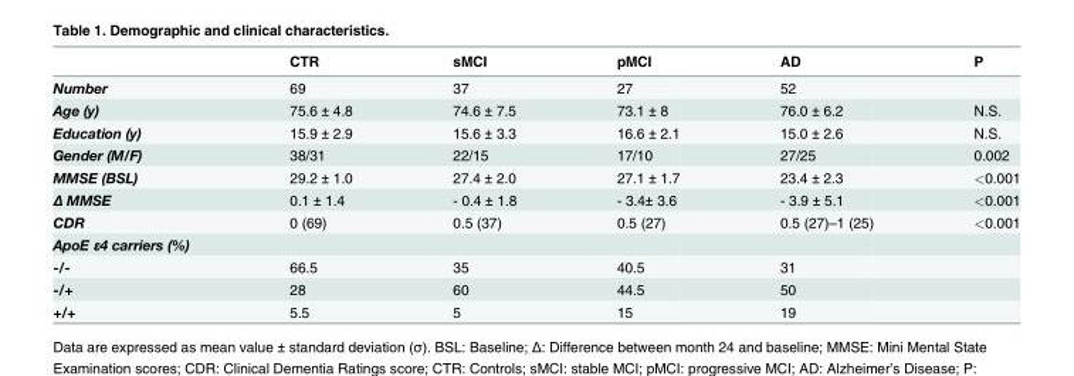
<table><thead><tr><td></td><td>CTR</td><td>sMCI</td><td>pMCI</td><td>AD</td><td>P</td></tr></thead><tbody><tr><td>Number</td><td>69</td><td>37</td><td>27</td><td>52</td><td></td></tr><tr><td>Age (y)</td><td>75.6 ± 4.8</td><td>74.6 ± 7.5</td><td>73.1 ± 8</td><td>76.0 ± 6.2</td><td>N.S.</td></tr><tr><td>Education (y)</td><td>15.9 ± 2.9</td><td>15.6 ± 3.3</td><td>16.6 ± 2.1</td><td>15.0 ± 2.6</td><td>N.S.</td></tr><tr><td>Gender (M/F)</td><td>38/31</td><td>22/15</td><td>17/10</td><td>27/25</td><td>0.002</td></tr><tr><td>MMSE (BSL)</td><td>29.2 ± 1.0</td><td>27.4 ± 2.0</td><td>27.1 ± 1.7</td><td>23.4 ± 2.3</td><td>&lt;0.001</td></tr><tr><td>Δ MMSE</td><td>0.1 ± 1.4</td><td>- 0.4 ± 1.8</td><td>- 3.4± 3.6</td><td>- 3.9 ± 5.1</td><td>&lt;0.001</td></tr><tr><td>CDR</td><td>0 (69)</td><td>0.5 (37)</td><td>0.5 (27)</td><td>0.5 (27)–1 (25)</td><td>&lt;0.001</td></tr><tr><td colspan="6">ApoE ε4 carriers (%)</td></tr><tr><td>-/-</td><td>66.5</td><td>35</td><td>40.5</td><td>31</td><td></td></tr><tr><td>-/+</td><td>28</td><td>60</td><td>44.5</td><td>50</td><td></td></tr><tr><td>+/+</td><td>5.5</td><td>5</td><td>15</td><td>19</td><td></td></tr></tbody></table>